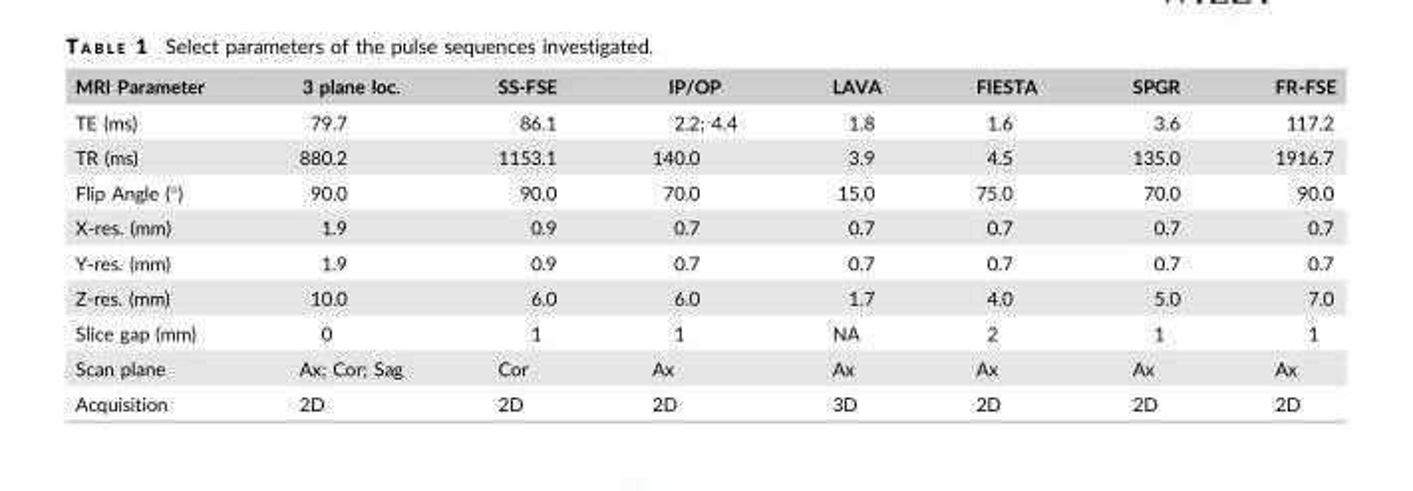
<table><thead><tr><td>MRI Parameter</td><td>3 plane loc.</td><td>SS-FSE</td><td>IP/OP</td><td>LAVA</td><td>FIESTA</td><td>SPGR</td><td>FR-FSE</td></tr></thead><tbody><tr><td>TE (ms)</td><td>79.7</td><td>86.1</td><td>2.2; 4.4</td><td>1.8</td><td>1.6</td><td>3.6</td><td>117.2</td></tr><tr><td>TR (ms)</td><td>880.2</td><td>1153.1</td><td>140.0</td><td>3.9</td><td>4.5</td><td>135.0</td><td>1916.7</td></tr><tr><td>Flip Angle (°)</td><td>90.0</td><td>90.0</td><td>70.0</td><td>15.0</td><td>75.0</td><td>70.0</td><td>90.0</td></tr><tr><td>X-res. (mm)</td><td>1.9</td><td>0.9</td><td>0.7</td><td>0.7</td><td>0.7</td><td>0.7</td><td>0.7</td></tr><tr><td>Y-res. (mm)</td><td>1.9</td><td>0.9</td><td>0.7</td><td>0.7</td><td>0.7</td><td>0.7</td><td>0.7</td></tr><tr><td>Z-res. (mm)</td><td>10.0</td><td>6.0</td><td>6.0</td><td>1.7</td><td>4.0</td><td>5.0</td><td>7.0</td></tr><tr><td>Slice gap (mm)</td><td>0</td><td>1</td><td>1</td><td>NA</td><td>2</td><td>1</td><td>1</td></tr><tr><td>Scan plane</td><td>Ax; Cor; Sag</td><td>Cor</td><td>Ax</td><td>Ax</td><td>Ax</td><td>Ax</td><td>Ax</td></tr><tr><td>Acquisition</td><td>2D</td><td>2D</td><td>2D</td><td>3D</td><td>2D</td><td>2D</td><td>2D</td></tr></tbody></table>